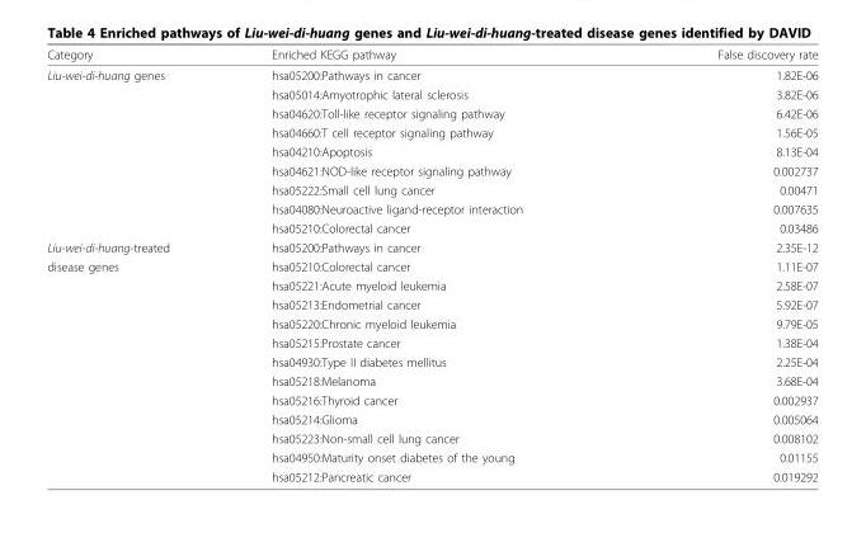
<table><thead><tr><td>Category</td><td>Enriched KEGG pathway</td><td>False discovery rate</td></tr></thead><tbody><tr><td rowspan="9">Liu-wei-di-huang genes</td><td>hsa05200:Pathways in cancer</td><td>1.82E-06</td></tr><tr><td>hsa05014:Amyotrophic lateral sclerosis</td><td>3.82E-06</td></tr><tr><td>hsa04620:Toll-like receptor signaling pathway</td><td>6.42E-06</td></tr><tr><td>hsa04660:T cell receptor signaling pathway</td><td>1.56E-05</td></tr><tr><td>hsa04210:Apoptosis</td><td>8.13E-04</td></tr><tr><td>hsa04621:NOD-like receptor signaling pathway</td><td>0.002737</td></tr><tr><td>hsa05222:Small cell lung cancer</td><td>0.00471</td></tr><tr><td>hsa04080:Neuroactive ligand-receptor interaction</td><td>0.007635</td></tr><tr><td>hsa05210:Colorectal cancer</td><td>0.03486</td></tr><tr><td>Liu-wei-di-huang-treated</td><td>hsa05200:Pathways in cancer</td><td>2.35E-12</td></tr><tr><td rowspan="12">disease genes</td><td>hsa05210:Colorectal cancer</td><td>1.11E-07</td></tr><tr><td>hsa05221:Acute myeloid leukemia</td><td>2.58E-07</td></tr><tr><td>hsa05213:Endometrial cancer</td><td>5.92E-07</td></tr><tr><td>hsa05220:Chronic myeloid leukemia</td><td>9.79E-05</td></tr><tr><td>hsa05215:Prostate cancer</td><td>1.38E-04</td></tr><tr><td>hsa04930:Type II diabetes mellitus</td><td>2.25E-04</td></tr><tr><td>hsa05218:Melanoma</td><td>3.68E-04</td></tr><tr><td>hsa05216:Thyroid cancer</td><td>0.002937</td></tr><tr><td>hsa05214:Glioma</td><td>0.005064</td></tr><tr><td>hsa05223:Non-small cell lung cancer</td><td>0.008102</td></tr><tr><td>hsa04950:Maturity onset diabetes of the young</td><td>0.01155</td></tr><tr><td>hsa05212:Pancreatic cancer</td><td>0.019292</td></tr></tbody></table>